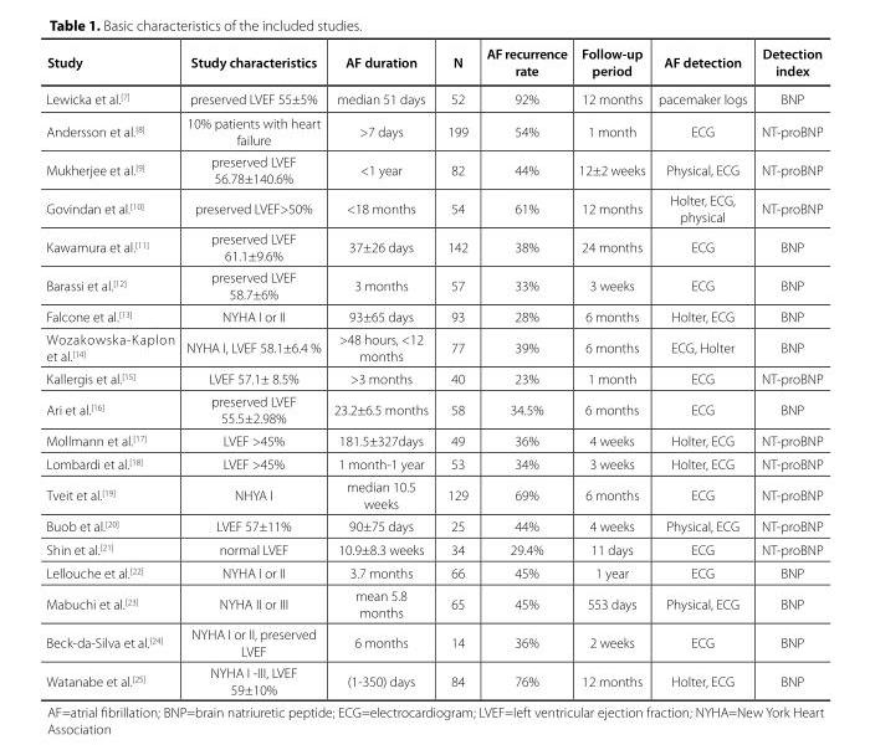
<table><thead><tr><td>Study</td><td>Study characteristics</td><td>AF duration</td><td>N</td><td>AF recurrence rate</td><td>Follow-up period</td><td>AF detection</td><td>Detection index</td></tr></thead><tbody><tr><td>Lewicka et al.<sup>[7]</sup></td><td>preserved LVEF 55±5%</td><td>median 51 days</td><td>52</td><td>92%</td><td>12 months</td><td>pacemaker logs</td><td>BNP</td></tr><tr><td>Andersson et al.<sup>[8]</sup></td><td>10% patients with heart failure</td><td>&gt;7 days</td><td>199</td><td>54%</td><td>1 month</td><td>ECG</td><td>NT-proBNP</td></tr><tr><td>Mukherjee et al.<sup>[9]</sup></td><td>preserved LVEF 56.78±140.6%</td><td>&lt;1 year</td><td>82</td><td>44%</td><td>12±2 weeks</td><td>Physical, ECG</td><td>NT-proBNP</td></tr><tr><td>Govindan et al.<sup>[10]</sup></td><td>preserved LVEF&gt;50%</td><td>&lt;18 months</td><td>54</td><td>61%</td><td>12 months</td><td>Holter, ECG, physical</td><td>NT-proBNP</td></tr><tr><td>Kawamura et al.<sup>[11]</sup></td><td>preserved LVEF 61.1±9.6%</td><td>37±26 days</td><td>142</td><td>38%</td><td>24 months</td><td>ECG</td><td>BNP</td></tr><tr><td>Barassi et al.<sup>[12]</sup></td><td>preserved LVEF 58.7±6%</td><td>3 months</td><td>57</td><td>33%</td><td>3 weeks</td><td>ECG</td><td>BNP</td></tr><tr><td>Falcone et al.<sup>[13]</sup></td><td>NYHA I or II</td><td>93±65 days</td><td>93</td><td>28%</td><td>6 months</td><td>Holter, ECG</td><td>BNP</td></tr><tr><td>Wozakowska-Kaplon et al.<sup>[14]</sup></td><td>NYHA I, LVEF 58.1±6.4 %</td><td>&gt;48 hours, &lt;12 months</td><td>77</td><td>39%</td><td>6 months</td><td>ECG, Holter</td><td>BNP</td></tr><tr><td>Kallergis et al.<sup>[15]</sup></td><td>LVEF 57.1± 8.5%</td><td>&gt;3 months</td><td>40</td><td>23%</td><td>1 month</td><td>ECG</td><td>NT-proBNP</td></tr><tr><td>Ari et al.<sup>[16]</sup></td><td>preserved LVEF 55.5±2.98%</td><td>23.2±6.5 months</td><td>58</td><td>34.5%</td><td>6 months</td><td>ECG</td><td>BNP</td></tr><tr><td>Mollmann et al.<sup>[17]</sup></td><td>LVEF &gt;45%</td><td>181.5±327days</td><td>49</td><td>36%</td><td>4 weeks</td><td>Holter, ECG</td><td>NT-proBNP</td></tr><tr><td>Lombardi et al.<sup>[18]</sup></td><td>LVEF &gt;45%</td><td>1 month-1 year</td><td>53</td><td>34%</td><td>3 weeks</td><td>Holter, ECG</td><td>NT-proBNP</td></tr><tr><td>Tveit et al.<sup>[19]</sup></td><td>NHYA I</td><td>median 10.5 weeks</td><td>129</td><td>69%</td><td>6 months</td><td>ECG</td><td>NT-proBNP</td></tr><tr><td>Buob et al.<sup>[20]</sup></td><td>LVEF 57±11%</td><td>90±75 days</td><td>25</td><td>44%</td><td>4 weeks</td><td>Physical, ECG</td><td>NT-proBNP</td></tr><tr><td>Shin et al.<sup>[21]</sup></td><td>normal LVEF</td><td>10.9±8.3 weeks</td><td>34</td><td>29.4%</td><td>11 days</td><td>ECG</td><td>NT-proBNP</td></tr><tr><td>Lellouche et al.<sup>[22]</sup></td><td>NYHA I or II</td><td>3.7 months</td><td>66</td><td>45%</td><td>1 year</td><td>ECG</td><td>BNP</td></tr><tr><td>Mabuchi et al.<sup>[23]</sup></td><td>NYHA II or III</td><td>mean 5.8 months</td><td>65</td><td>45%</td><td>553 days</td><td>Physical, ECG</td><td>BNP</td></tr><tr><td>Beck-da-Silva et al.<sup>[24]</sup></td><td>NYHA I or II, preserved LVEF</td><td>6 months</td><td>14</td><td>36%</td><td>2 weeks</td><td>ECG</td><td>BNP</td></tr><tr><td>Watanabe et al.<sup>[25]</sup></td><td>NYHA I -III, LVEF 59±10%</td><td>(1-350) days</td><td>84</td><td>76%</td><td>12 months</td><td>Holter, ECG</td><td>BNP</td></tr></tbody></table>